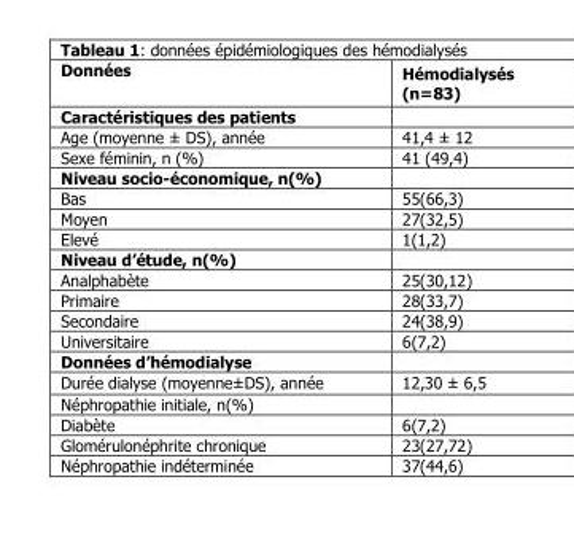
<table><thead><tr><td>Données</td><td>Hémodialysés (n=83)</td></tr></thead><tbody><tr><td colspan="2">Caractéristiques des patients</td></tr><tr><td>Age (moyenne ± DS), année</td><td>41,4 ± 12</td></tr><tr><td>Sexe féminin, n (%)</td><td>41 (49,4)</td></tr><tr><td colspan="2">Niveau socio-économique, n(%)</td></tr><tr><td>Bas</td><td>55(66,3)</td></tr><tr><td>Moyen</td><td>27(32,5)</td></tr><tr><td>Elevé</td><td>1(1,2)</td></tr><tr><td colspan="2">Niveau d’étude, n(%)</td></tr><tr><td>Analphabète</td><td>25(30,12)</td></tr><tr><td>Primaire</td><td>28(33,7)</td></tr><tr><td>Secondaire</td><td>24(38,9)</td></tr><tr><td>Universitaire</td><td>6(7,2)</td></tr><tr><td colspan="2">Données d’hémodialyse</td></tr><tr><td>Durée dialyse (moyenne±DS), année</td><td>12,30 ± 6,5</td></tr><tr><td colspan="2">Néphropathie initiale, n(%)</td></tr><tr><td>Diabète</td><td>6(7,2)</td></tr><tr><td>Glomérulonéphrite chronique</td><td>23(27,72)</td></tr><tr><td>Néphropathie indéterminée</td><td>37(44,6)</td></tr></tbody></table>